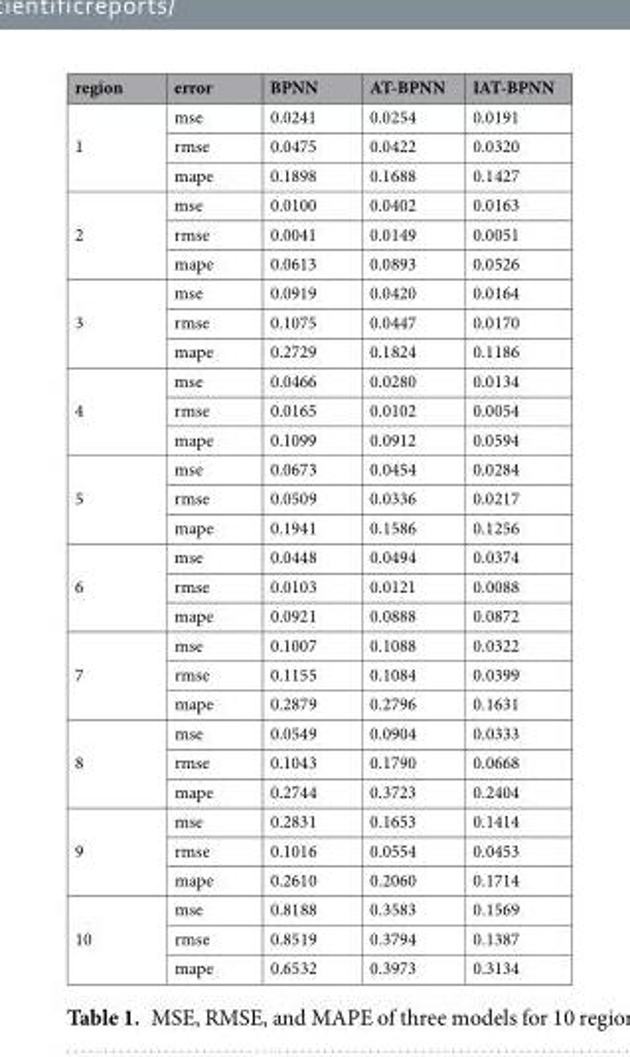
<table><thead><tr><td>region</td><td>error</td><td>BPNN</td><td>AT-BPNN</td><td>IAT-BPNN</td></tr></thead><tbody><tr><td rowspan="3">1</td><td>mse</td><td>0.0241</td><td>0.0254</td><td>0.0191</td></tr><tr><td>rmse</td><td>0.0475</td><td>0.0422</td><td>0.0320</td></tr><tr><td>mape</td><td>0.1898</td><td>0.1688</td><td>0.1427</td></tr><tr><td rowspan="3">2</td><td>mse</td><td>0.0100</td><td>0.0402</td><td>0.0163</td></tr><tr><td>rmse</td><td>0.0041</td><td>0.0149</td><td>0.0051</td></tr><tr><td>mape</td><td>0.0613</td><td>0.0893</td><td>0.0526</td></tr><tr><td rowspan="3">3</td><td>mse</td><td>0.0919</td><td>0.0420</td><td>0.0164</td></tr><tr><td>rmse</td><td>0.1075</td><td>0.0447</td><td>0.0170</td></tr><tr><td>mape</td><td>0.2729</td><td>0.1824</td><td>0.1186</td></tr><tr><td rowspan="3">4</td><td>mse</td><td>0.0466</td><td>0.0280</td><td>0.0134</td></tr><tr><td>rmse</td><td>0.0165</td><td>0.0102</td><td>0.0054</td></tr><tr><td>mape</td><td>0.1099</td><td>0.0912</td><td>0.0594</td></tr><tr><td rowspan="3">5</td><td>mse</td><td>0.0673</td><td>0.0454</td><td>0.0284</td></tr><tr><td>rmse</td><td>0.0509</td><td>0.0336</td><td>0.0217</td></tr><tr><td>mape</td><td>0.1941</td><td>0.1586</td><td>0.1256</td></tr><tr><td rowspan="3">6</td><td>mse</td><td>0.0448</td><td>0.0494</td><td>0.0374</td></tr><tr><td>rmse</td><td>0.0103</td><td>0.0121</td><td>0.0088</td></tr><tr><td>mape</td><td>0.0921</td><td>0.0888</td><td>0.0872</td></tr><tr><td rowspan="3">7</td><td>mse</td><td>0.1007</td><td>0.1088</td><td>0.0322</td></tr><tr><td>rmse</td><td>0.1155</td><td>0.1084</td><td>0.0399</td></tr><tr><td>mape</td><td>0.2879</td><td>0.2796</td><td>0.1631</td></tr><tr><td rowspan="3">8</td><td>mse</td><td>0.0549</td><td>0.0904</td><td>0.0333</td></tr><tr><td>rmse</td><td>0.1043</td><td>0.1790</td><td>0.0668</td></tr><tr><td>mape</td><td>0.2744</td><td>0.3723</td><td>0.2404</td></tr><tr><td rowspan="3">9</td><td>mse</td><td>0.2831</td><td>0.1653</td><td>0.1414</td></tr><tr><td>rmse</td><td>0.1016</td><td>0.0554</td><td>0.0453</td></tr><tr><td>mape</td><td>0.2610</td><td>0.2060</td><td>0.1714</td></tr><tr><td rowspan="3">10</td><td>mse</td><td>0.8188</td><td>0.3583</td><td>0.1569</td></tr><tr><td>rmse</td><td>0.8519</td><td>0.3794</td><td>0.1387</td></tr><tr><td>mape</td><td>0.6532</td><td>0.3973</td><td>0.3134</td></tr></tbody></table>